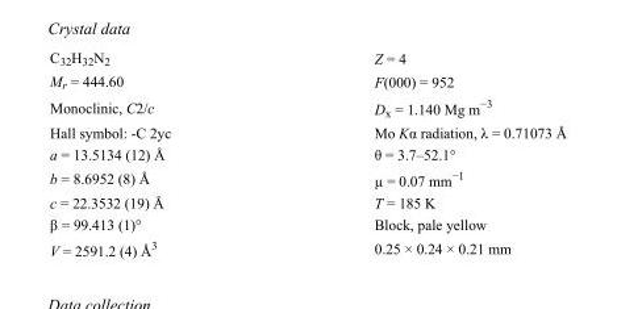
<table><tbody><tr><td>C<sub>32</sub>H<sub>32</sub>N<sub>2</sub></td><td>Z = 4</td></tr><tr><td>M<sub>r</sub> = 444.60</td><td>F(000) = 952</td></tr><tr><td>Monoclinic, C2/c</td><td>D<sub>x</sub> = 1.140 Mg m<sup>−3</sup></td></tr><tr><td>Hall symbol: -C 2yc</td><td>Mo Kα radiation, λ = 0.71073 Å</td></tr><tr><td>a = 13.5134 (12) Å</td><td>θ = 3.7–52.1°</td></tr><tr><td>b = 8.6952 (8) Å</td><td>µ = 0.07 mm<sup>−1</sup></td></tr><tr><td>c = 22.3532 (19) Å</td><td>T = 185 K</td></tr><tr><td>β = 99.413 (1)°</td><td>Block, pale yellow</td></tr><tr><td>V = 2591.2 (4) Å<sup>3</sup></td><td>0.25 × 0.24 × 0.21 mm</td></tr></tbody></table>